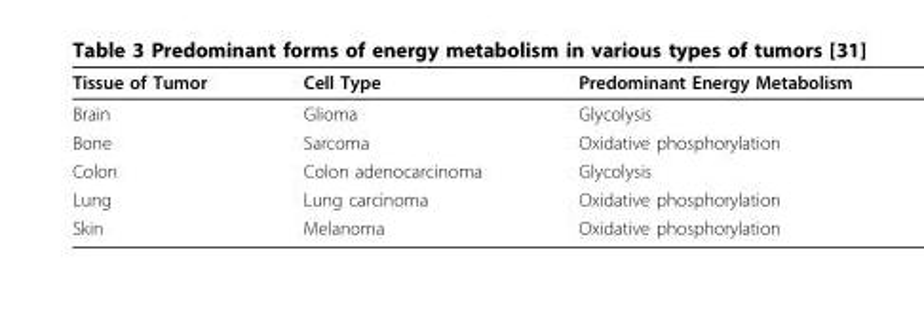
<table><thead><tr><td>Tissue of Tumor</td><td>Cell Type</td><td>Predominant Energy Metabolism</td></tr></thead><tbody><tr><td>Brain</td><td>Glioma</td><td>Glycolysis</td></tr><tr><td>Bone</td><td>Sarcoma</td><td>Oxidative phosphorylation</td></tr><tr><td>Colon</td><td>Colon adenocarcinoma</td><td>Glycolysis</td></tr><tr><td>Lung</td><td>Lung carcinoma</td><td>Oxidative phosphorylation</td></tr><tr><td>Skin</td><td>Melanoma</td><td>Oxidative phosphorylation</td></tr></tbody></table>